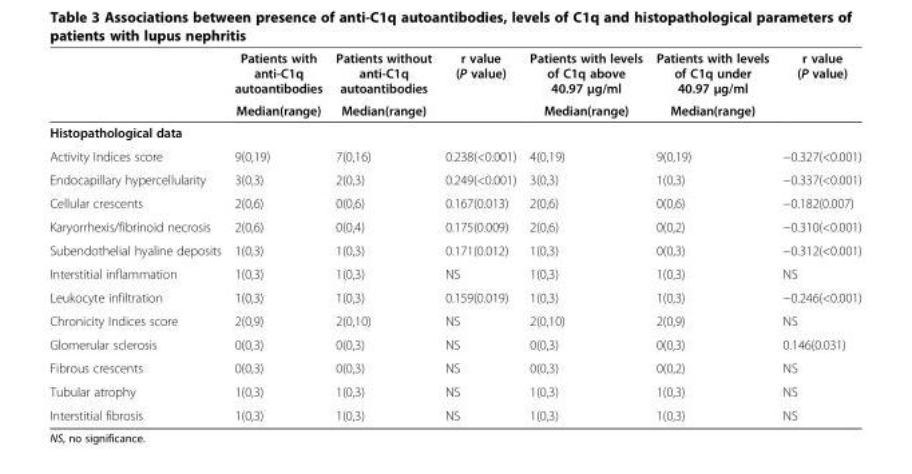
<table><thead><tr><td rowspan="2"></td><td rowspan="2">Patients with anti-C1q autoantibodies Median(range)</td><td rowspan="2">Patients without anti-C1q autoantibodies Median(range)</td><td rowspan="2">r value (P value)</td><td rowspan="2">Patients with levels of C1q above 40.97 μg/ml Median(range)</td><td rowspan="2">Patients with levels of C1q under 40.97 μg/ml Median(range)</td><td rowspan="2">r value (P value)</td></tr><tr></tr></thead><tbody><tr><td colspan="7">Histopathological data</td></tr><tr><td>Activity Indices score</td><td>9(0,19)</td><td>7(0,16)</td><td>0.238(&lt;0.001)</td><td>4(0,19)</td><td>9(0,19)</td><td>−0.327(&lt;0.001)</td></tr><tr><td>Endocapillary hypercellularity</td><td>3(0,3)</td><td>2(0,3)</td><td>0.249(&lt;0.001)</td><td>3(0,3)</td><td>1(0,3)</td><td>−0.337(&lt;0.001)</td></tr><tr><td>Cellular crescents</td><td>2(0,6)</td><td>0(0,6)</td><td>0.167(0.013)</td><td>2(0,6)</td><td>0(0,6)</td><td>−0.182(0.007)</td></tr><tr><td>Karyorrhexis/fibrinoid necrosis</td><td>2(0,6)</td><td>0(0,4)</td><td>0.175(0.009)</td><td>2(0,6)</td><td>0(0,2)</td><td>−0.310(&lt;0.001)</td></tr><tr><td>Subendothelial hyaline deposits</td><td>1(0,3)</td><td>1(0,3)</td><td>0.171(0.012)</td><td>1(0,3)</td><td>0(0,3)</td><td>−0.312(&lt;0.001)</td></tr><tr><td>Interstitial inflammation</td><td>1(0,3)</td><td>1(0,3)</td><td>NS</td><td>1(0,3)</td><td>1(0,3)</td><td>NS</td></tr><tr><td>Leukocyte infiltration</td><td>1(0,3)</td><td>1(0,3)</td><td>0.159(0.019)</td><td>1(0,3)</td><td>1(0,3)</td><td>−0.246(&lt;0.001)</td></tr><tr><td>Chronicity Indices score</td><td>2(0,9)</td><td>2(0,10)</td><td>NS</td><td>2(0,10)</td><td>2(0,9)</td><td>NS</td></tr><tr><td>Glomerular sclerosis</td><td>0(0,3)</td><td>0(0,3)</td><td>NS</td><td>0(0,3)</td><td>0(0,3)</td><td>0.146(0.031)</td></tr><tr><td>Fibrous crescents</td><td>0(0,3)</td><td>0(0,3)</td><td>NS</td><td>0(0,3)</td><td>0(0,2)</td><td>NS</td></tr><tr><td>Tubular atrophy</td><td>1(0,3)</td><td>1(0,3)</td><td>NS</td><td>1(0,3)</td><td>1(0,3)</td><td>NS</td></tr><tr><td>Interstitial fibrosis</td><td>1(0,3)</td><td>1(0,3)</td><td>NS</td><td>1(0,3)</td><td>1(0,3)</td><td>NS</td></tr></tbody></table>